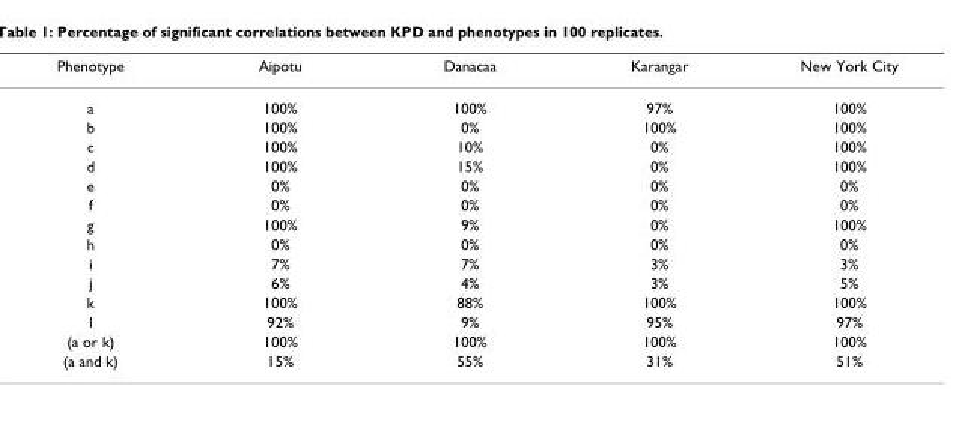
<table><thead><tr><td>Phenotype</td><td>Aipotu</td><td>Danacaa</td><td>Karangar</td><td>New York City</td></tr></thead><tbody><tr><td>a</td><td>100%</td><td>100%</td><td>97%</td><td>100%</td></tr><tr><td>b</td><td>100%</td><td>0%</td><td>100%</td><td>100%</td></tr><tr><td>c</td><td>100%</td><td>10%</td><td>0%</td><td>100%</td></tr><tr><td>d</td><td>100%</td><td>15%</td><td>0%</td><td>100%</td></tr><tr><td>e</td><td>0%</td><td>0%</td><td>0%</td><td>0%</td></tr><tr><td>f</td><td>0%</td><td>0%</td><td>0%</td><td>0%</td></tr><tr><td>g</td><td>100%</td><td>9%</td><td>0%</td><td>100%</td></tr><tr><td>h</td><td>0%</td><td>0%</td><td>0%</td><td>0%</td></tr><tr><td>i</td><td>7%</td><td>7%</td><td>3%</td><td>3%</td></tr><tr><td>j</td><td>6%</td><td>4%</td><td>3%</td><td>5%</td></tr><tr><td>k</td><td>100%</td><td>88%</td><td>100%</td><td>100%</td></tr><tr><td>l</td><td>92%</td><td>9%</td><td>95%</td><td>97%</td></tr><tr><td>(a or k)</td><td>100%</td><td>100%</td><td>100%</td><td>100%</td></tr><tr><td>(a and k)</td><td>15%</td><td>55%</td><td>31%</td><td>51%</td></tr></tbody></table>